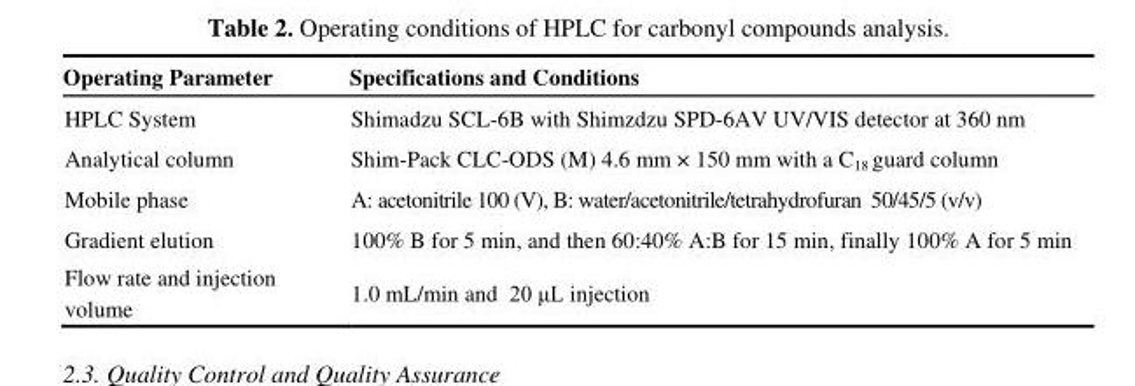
<table><thead><tr><td>Operating Parameter</td><td>Specifications and Conditions</td></tr></thead><tbody><tr><td>HPLC System</td><td>Shimadzu SCL-6B with Shimzdzu SPD-6AV UV/VIS detector at 360 nm</td></tr><tr><td>Analytical column</td><td>Shim-Pack CLC-ODS (M) 4.6 mm × 150 mm with a C<sub>18</sub> guard column</td></tr><tr><td>Mobile phase</td><td>A: acetonitrile 100 (V), B: water/acetonitrile/tetrahydrofuran 50/45/5 (v/v)</td></tr><tr><td>Gradient elution</td><td>100% B for 5 min, and then 60:40% A:B for 15 min, finally 100% A for 5 min</td></tr><tr><td>Flow rate and injection volume</td><td>1.0 mL/min and 20 μL injection</td></tr></tbody></table>